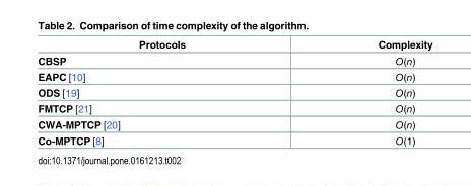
<table><thead><tr><td>Protocols</td><td>Complexity</td></tr></thead><tbody><tr><td>CBSP</td><td>O(n)</td></tr><tr><td>EAPC [10]</td><td>O(n)</td></tr><tr><td>ODS [19]</td><td>O(n)</td></tr><tr><td>FMTCP [21]</td><td>O(n)</td></tr><tr><td>CWA-MPTCP [20]</td><td>O(n)</td></tr><tr><td>Co-MPTCP [8]</td><td>O(1)</td></tr></tbody></table>